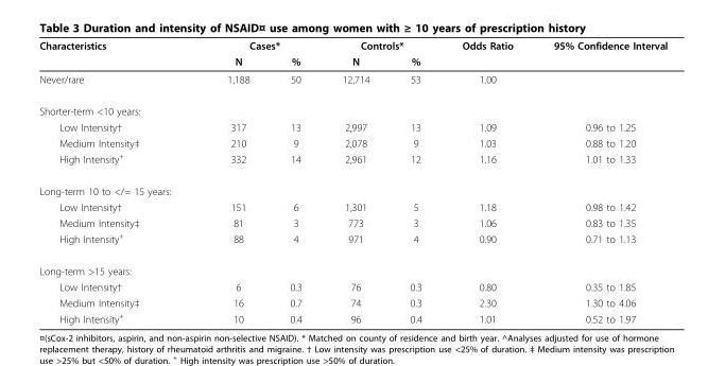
<table><thead><tr><td rowspan="2">Characteristics</td><td colspan="2">Cases*</td><td colspan="2">Controls*</td><td rowspan="2">Odds Ratio</td><td rowspan="2">95% Confidence Interval</td></tr><tr><td>N</td><td>%</td><td>N</td><td>%</td></tr></thead><tbody><tr><td>Never/rare</td><td>1,188</td><td>50</td><td>12,714</td><td>53</td><td>1.00</td><td></td></tr><tr><td colspan="7">Shorter-term &lt;10 years:</td></tr><tr><td>Low Intensity†</td><td>317</td><td>13</td><td>2,997</td><td>13</td><td>1.09</td><td>0.96 to 1.25</td></tr><tr><td>Medium Intensity‡</td><td>210</td><td>9</td><td>2,078</td><td>9</td><td>1.03</td><td>0.88 to 1.20</td></tr><tr><td>High Intensity<sup>+</sup></td><td>332</td><td>14</td><td>2,961</td><td>12</td><td>1.16</td><td>1.01 to 1.33</td></tr><tr><td colspan="7">Long-term 10 to &lt;/= 15 years:</td></tr><tr><td>Low Intensity†</td><td>151</td><td>6</td><td>1,301</td><td>5</td><td>1.18</td><td>0.98 to 1.42</td></tr><tr><td>Medium Intensity‡</td><td>81</td><td>3</td><td>773</td><td>3</td><td>1.06</td><td>0.83 to 1.35</td></tr><tr><td>High Intensity<sup>+</sup></td><td>88</td><td>4</td><td>971</td><td>4</td><td>0.90</td><td>0.71 to 1.13</td></tr><tr><td colspan="7">Long-term &gt;15 years:</td></tr><tr><td>Low Intensity†</td><td>6</td><td>0.3</td><td>76</td><td>0.3</td><td>0.80</td><td>0.35 to 1.85</td></tr><tr><td>Medium Intensity‡</td><td>16</td><td>0.7</td><td>74</td><td>0.3</td><td>2.30</td><td>1.30 to 4.06</td></tr><tr><td>High Intensity<sup>+</sup></td><td>10</td><td>0.4</td><td>96</td><td>0.4</td><td>1.01</td><td>0.52 to 1.97</td></tr></tbody></table>